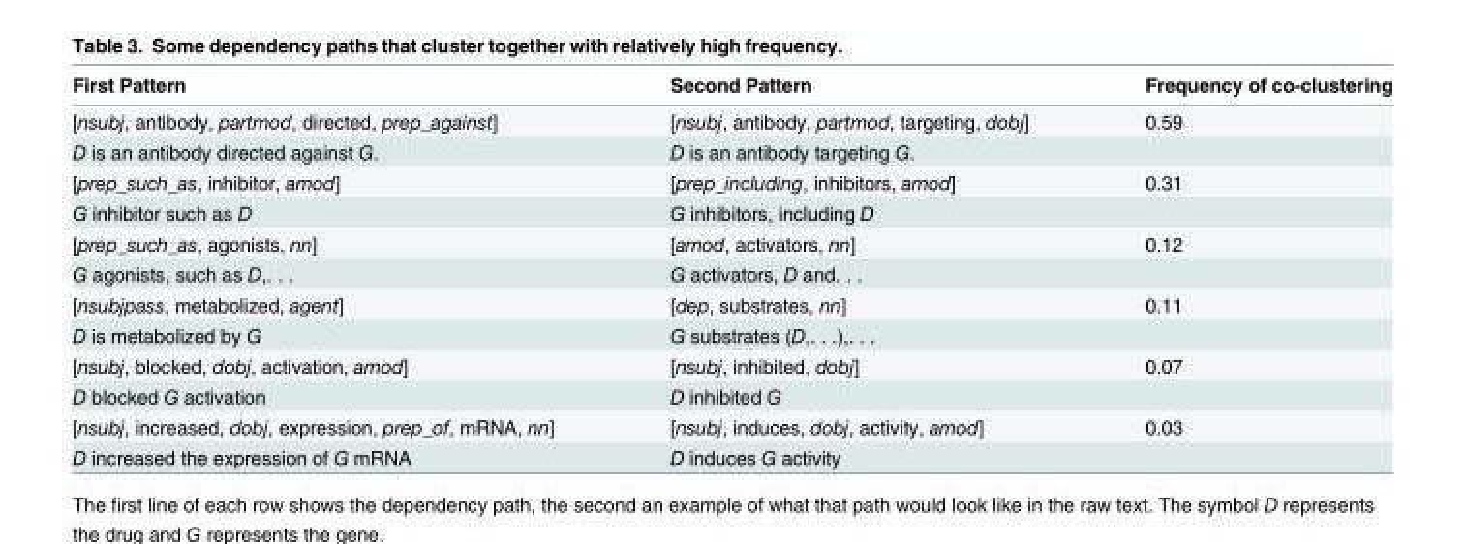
<table><thead><tr><td>First Pattern</td><td>Second Pattern</td><td>Frequency of co-clustering</td></tr></thead><tbody><tr><td>[nsubj, antibody, partmod, directed, prep_against]</td><td>[nsubj, antibody, partmod, targeting, dobj]</td><td>0.59</td></tr><tr><td>D is an antibody directed against G.</td><td>D is an antibody targeting G.</td><td></td></tr><tr><td>[prep_such_as, inhibitor, amod]</td><td>[prep_including, inhibitors, amod]</td><td>0.31</td></tr><tr><td>G inhibitor such as D</td><td>G inhibitors, including D</td><td></td></tr><tr><td>[prep_such_as, agonists, nn]</td><td>[amod, activators, nn]</td><td>0.12</td></tr><tr><td>G agonists, such as D,. . .</td><td>G activators, D and. . .</td><td></td></tr><tr><td>[nsubjpass, metabolized, agent]</td><td>[dep, substrates, nn]</td><td>0.11</td></tr><tr><td>D is metabolized by G</td><td>G substrates (D,. . .),. . .</td><td></td></tr><tr><td>[nsubj, blocked, dobj, activation, amod]</td><td>[nsubj, inhibited, dobj]</td><td>0.07</td></tr><tr><td>D blocked G activation</td><td>D inhibited G</td><td></td></tr><tr><td>[nsubj, increased, dobj, expression, prep_of, mRNA, nn]</td><td>[nsubj, induces, dobj, activity, amod]</td><td>0.03</td></tr><tr><td>D increased the expression of G mRNA</td><td>D induces G activity</td><td></td></tr></tbody></table>